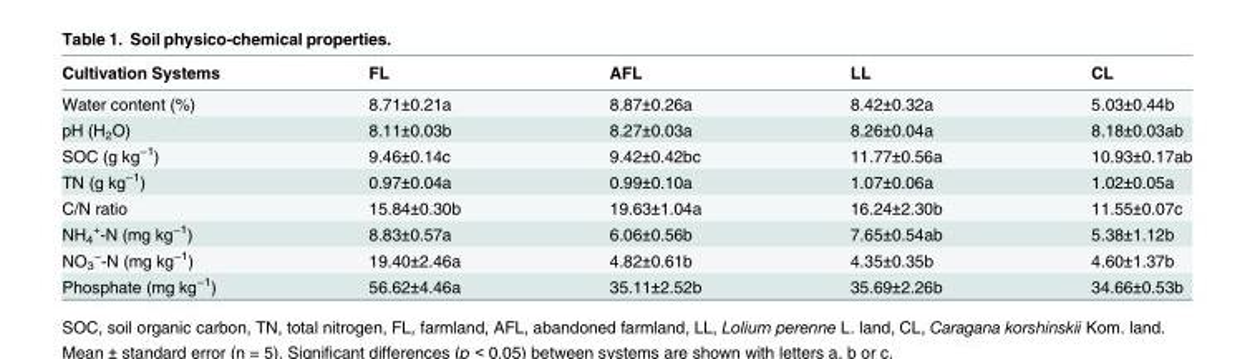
<table><thead><tr><td>Cultivation Systems</td><td>FL</td><td>AFL</td><td>LL</td><td>CL</td></tr></thead><tbody><tr><td>Water content (%)</td><td>8.71±0.21a</td><td>8.87±0.26a</td><td>8.42±0.32a</td><td>5.03±0.44b</td></tr><tr><td>pH (H<sub>2</sub>O)</td><td>8.11±0.03b</td><td>8.27±0.03a</td><td>8.26±0.04a</td><td>8.18±0.03ab</td></tr><tr><td>SOC (g kg<sup>−1</sup>)</td><td>9.46±0.14c</td><td>9.42±0.42bc</td><td>11.77±0.56a</td><td>10.93±0.17ab</td></tr><tr><td>TN (g kg<sup>−1</sup>)</td><td>0.97±0.04a</td><td>0.99±0.10a</td><td>1.07±0.06a</td><td>1.02±0.05a</td></tr><tr><td>C/N ratio</td><td>15.84±0.30b</td><td>19.63±1.04a</td><td>16.24±2.30b</td><td>11.55±0.07c</td></tr><tr><td>NH<sub>4</sub> <sup>+</sup>-N (mg kg<sup>−1</sup>)</td><td>8.83±0.57a</td><td>6.06±0.56b</td><td>7.65±0.54ab</td><td>5.38±1.12b</td></tr><tr><td>NO<sub>3</sub> <sup>−</sup>-N (mg kg<sup>−1</sup>)</td><td>19.40±2.46a</td><td>4.82±0.61b</td><td>4.35±0.35b</td><td>4.60±1.37b</td></tr><tr><td>Phosphate (mg kg<sup>−1</sup>)</td><td>56.62±4.46a</td><td>35.11±2.52b</td><td>35.69±2.26b</td><td>34.66±0.53b</td></tr></tbody></table>